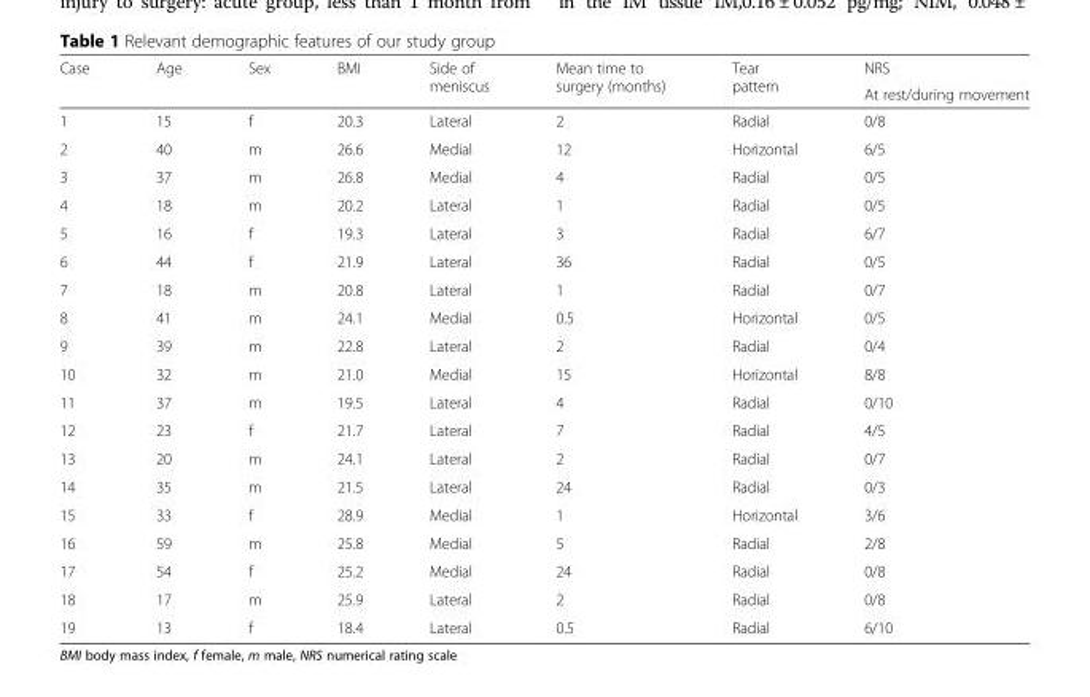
<table><thead><tr><td rowspan="2">Case</td><td rowspan="2">Age</td><td rowspan="2">Sex</td><td rowspan="2">BMI</td><td rowspan="2">Side of meniscus</td><td rowspan="2">Mean time to surgery (months)</td><td rowspan="2">Tear pattern</td><td rowspan="2">NRS At rest/during movement</td></tr><tr></tr></thead><tbody><tr><td>1</td><td>15</td><td>f</td><td>20.3</td><td>Lateral</td><td>2</td><td>Radial</td><td>0/8</td></tr><tr><td>2</td><td>40</td><td>m</td><td>26.6</td><td>Medial</td><td>12</td><td>Horizontal</td><td>6/5</td></tr><tr><td>3</td><td>37</td><td>m</td><td>26.8</td><td>Medial</td><td>4</td><td>Radial</td><td>0/5</td></tr><tr><td>4</td><td>18</td><td>m</td><td>20.2</td><td>Lateral</td><td>1</td><td>Radial</td><td>0/5</td></tr><tr><td>5</td><td>16</td><td>f</td><td>19.3</td><td>Lateral</td><td>3</td><td>Radial</td><td>6/7</td></tr><tr><td>6</td><td>44</td><td>f</td><td>21.9</td><td>Lateral</td><td>36</td><td>Radial</td><td>0/5</td></tr><tr><td>7</td><td>18</td><td>m</td><td>20.8</td><td>Lateral</td><td>1</td><td>Radial</td><td>0/7</td></tr><tr><td>8</td><td>41</td><td>m</td><td>24.1</td><td>Medial</td><td>0.5</td><td>Horizontal</td><td>0/5</td></tr><tr><td>9</td><td>39</td><td>m</td><td>22.8</td><td>Lateral</td><td>2</td><td>Radial</td><td>0/4</td></tr><tr><td>10</td><td>32</td><td>m</td><td>21.0</td><td>Medial</td><td>15</td><td>Horizontal</td><td>8/8</td></tr><tr><td>11</td><td>37</td><td>m</td><td>19.5</td><td>Lateral</td><td>4</td><td>Radial</td><td>0/10</td></tr><tr><td>12</td><td>23</td><td>f</td><td>21.7</td><td>Lateral</td><td>7</td><td>Radial</td><td>4/5</td></tr><tr><td>13</td><td>20</td><td>m</td><td>24.1</td><td>Lateral</td><td>2</td><td>Radial</td><td>0/7</td></tr><tr><td>14</td><td>35</td><td>m</td><td>21.5</td><td>Lateral</td><td>24</td><td>Radial</td><td>0/3</td></tr><tr><td>15</td><td>33</td><td>f</td><td>28.9</td><td>Medial</td><td>1</td><td>Horizontal</td><td>3/6</td></tr><tr><td>16</td><td>59</td><td>m</td><td>25.8</td><td>Medial</td><td>5</td><td>Radial</td><td>2/8</td></tr><tr><td>17</td><td>54</td><td>f</td><td>25.2</td><td>Medial</td><td>24</td><td>Radial</td><td>0/8</td></tr><tr><td>18</td><td>17</td><td>m</td><td>25.9</td><td>Lateral</td><td>2</td><td>Radial</td><td>0/8</td></tr><tr><td>19</td><td>13</td><td>f</td><td>18.4</td><td>Lateral</td><td>0.5</td><td>Radial</td><td>6/10</td></tr></tbody></table>